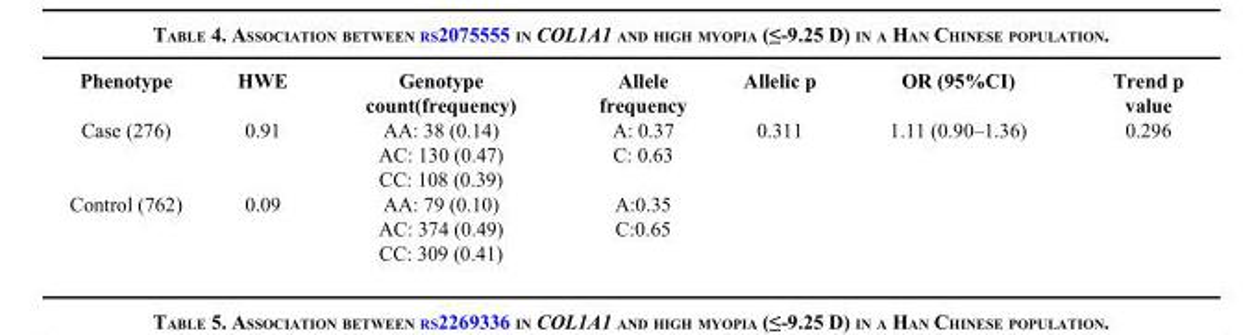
<table><thead><tr><td>Phenotype</td><td>HWE</td><td>Genotype count(frequency)</td><td>Allele frequency</td><td>Allelic p</td><td>OR (95%CI)</td><td>Trend p value</td></tr></thead><tbody><tr><td rowspan="3">Case (276)</td><td>0.91</td><td>AA: 38 (0.14)</td><td>A: 0.37</td><td>0.311</td><td>1.11 (0.90–1.36)</td><td>0.296</td></tr><tr><td></td><td>AC: 130 (0.47)</td><td>C: 0.63</td><td></td><td></td><td></td></tr><tr><td></td><td>CC: 108 (0.39)</td><td></td><td></td><td></td><td></td></tr><tr><td rowspan="3">Control (762)</td><td>0.09</td><td>AA: 79 (0.10)</td><td>A:0.35</td><td></td><td></td><td></td></tr><tr><td></td><td>AC: 374 (0.49)</td><td>C:0.65</td><td></td><td></td><td></td></tr><tr><td></td><td>CC: 309 (0.41)</td><td></td><td></td><td></td><td></td></tr></tbody></table>